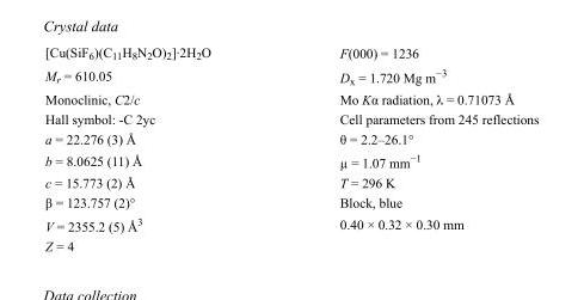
<table><tbody><tr><td>[Cu(SiF<sub>6</sub>)(C<sub>11</sub>H<sub>8</sub>N<sub>2</sub>O)<sub>2</sub>]·2H<sub>2</sub>O</td><td>F(000) = 1236</td></tr><tr><td>M<sub>r</sub> = 610.05</td><td>D<sub>x</sub> = 1.720 Mg m<sup>−3</sup></td></tr><tr><td>Monoclinic, C2/c</td><td>Mo Kα radiation, λ = 0.71073 Å</td></tr><tr><td>Hall symbol: -C 2yc</td><td>Cell parameters from 245 reflections</td></tr><tr><td>a = 22.276 (3) Å</td><td>θ = 2.2–26.1°</td></tr><tr><td>b = 8.0625 (11) Å</td><td>µ = 1.07 mm<sup>−1</sup></td></tr><tr><td>c = 15.773 (2) Å</td><td>T = 296 K</td></tr><tr><td>β = 123.757 (2)°</td><td>Block, blue</td></tr><tr><td>V = 2355.2 (5) Å<sup>3</sup></td><td>0.40 × 0.32 × 0.30 mm</td></tr><tr><td>Z = 4</td><td></td></tr></tbody></table>